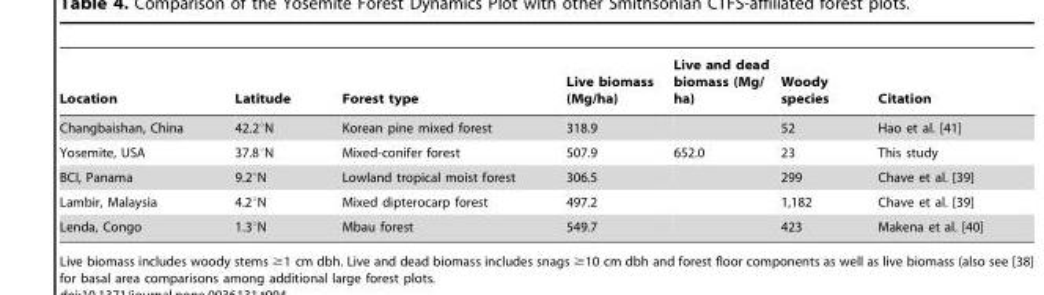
<table><thead><tr><td>Location</td><td>Latitude</td><td>Forest type</td><td>Live biomass (Mg/ha)</td><td>Live and dead biomass (Mg/ ha)</td><td>Woody species</td><td>Citation</td></tr></thead><tbody><tr><td>Changbaishan, China</td><td>42.2°N</td><td>Korean pine mixed forest</td><td>318.9</td><td></td><td>52</td><td>Hao et al. [41]</td></tr><tr><td>Yosemite, USA</td><td>37.8°N</td><td>Mixed-conifer forest</td><td>507.9</td><td>652.0</td><td>23</td><td>This study</td></tr><tr><td>BCI, Panama</td><td>9.2°N</td><td>Lowland tropical moist forest</td><td>306.5</td><td></td><td>299</td><td>Chave et al. [39]</td></tr><tr><td>Lambir, Malaysia</td><td>4.2°N</td><td>Mixed dipterocarp forest</td><td>497.2</td><td></td><td>1,182</td><td>Chave et al. [39]</td></tr><tr><td>Lenda, Congo</td><td>1.3°N</td><td>Mbau forest</td><td>549.7</td><td></td><td>423</td><td>Makena et al. [40]</td></tr></tbody></table>